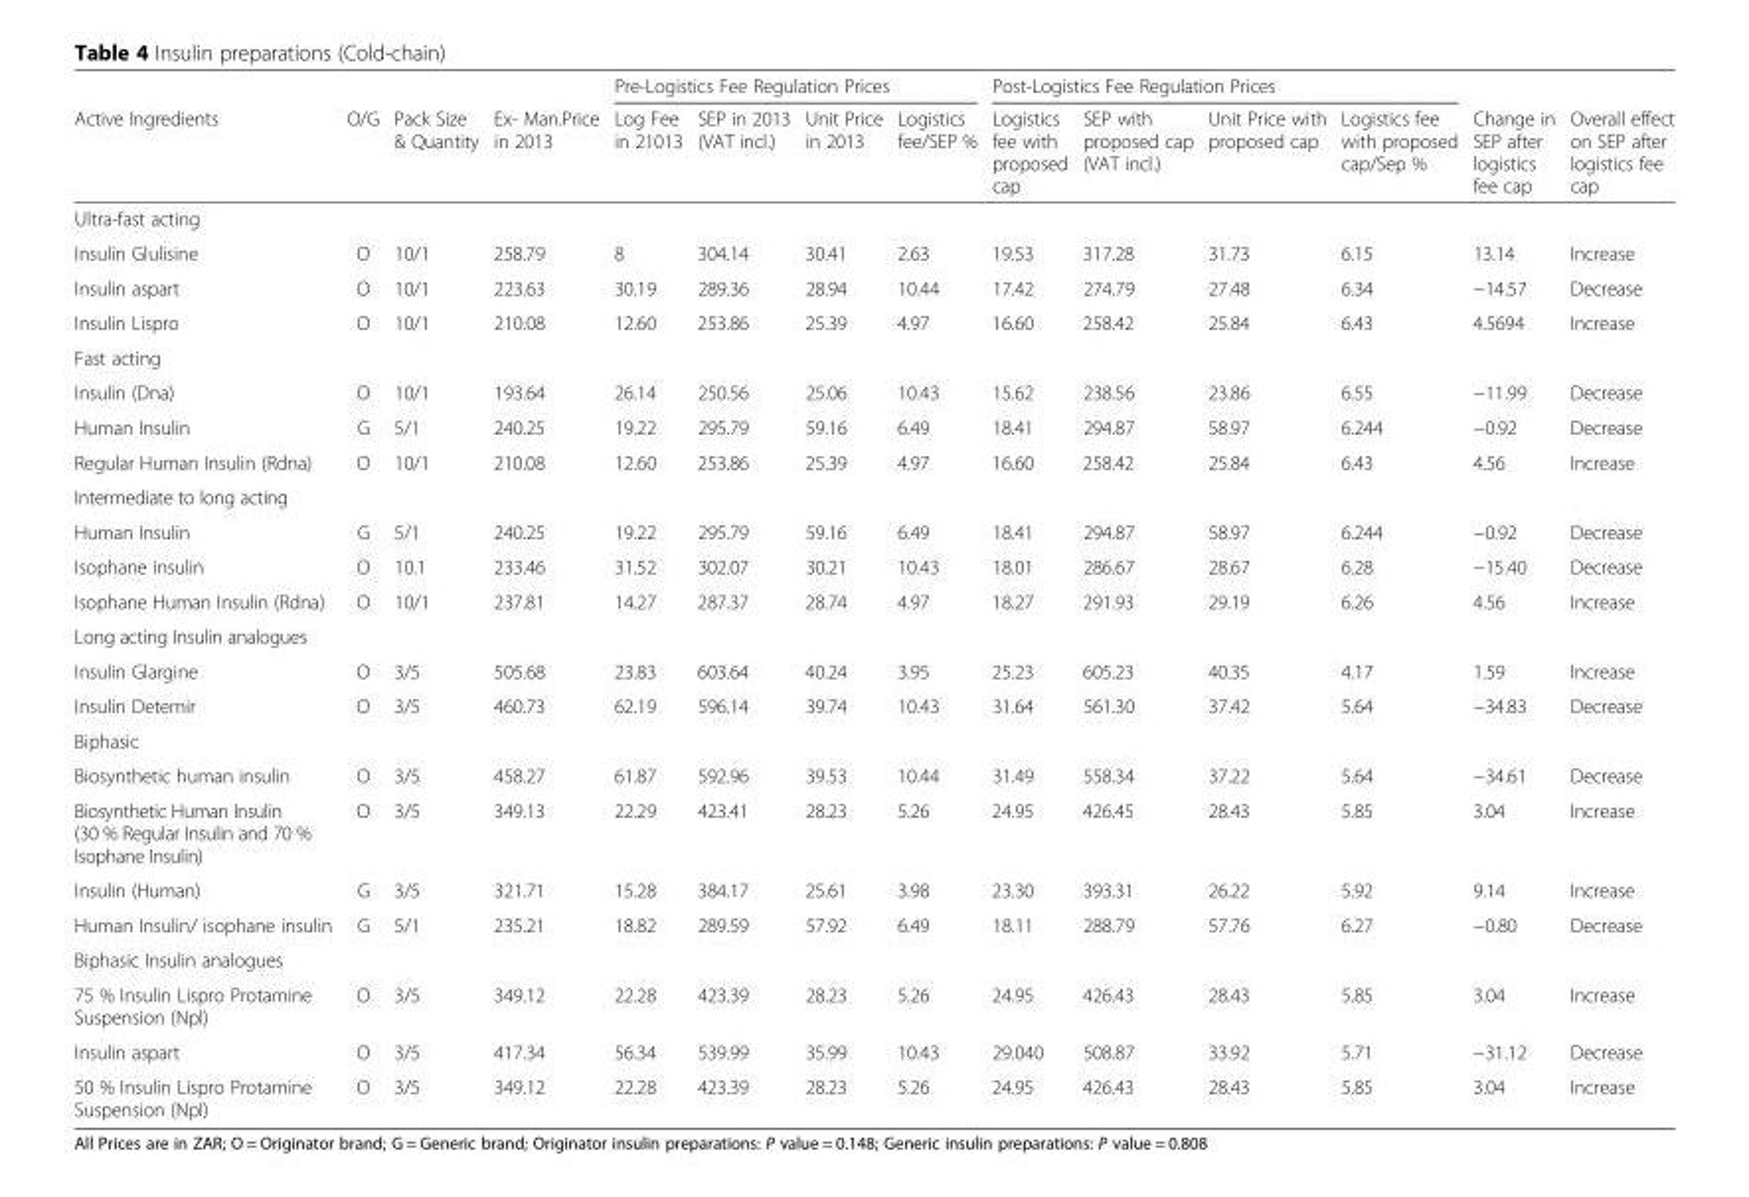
<table><thead><tr><td rowspan="2">Active Ingredients</td><td rowspan="2">O/G</td><td rowspan="2">Pack Size &amp; Quantity</td><td rowspan="2">Ex- Man.Price in 2013</td><td colspan="4">Pre-Logistics Fee Regulation Prices</td><td colspan="4">Post-Logistics Fee Regulation Prices</td><td rowspan="2">Change in SEP after logistics fee cap</td><td rowspan="2">Overall effect on SEP after logistics fee cap</td></tr><tr><td>Log Fee in 21013</td><td>SEP in 2013 (VAT incl.)</td><td>Unit Price in 2013</td><td>Logistics fee/SEP %</td><td>Logistics fee with proposed cap</td><td>SEP with proposed cap (VAT incl.)</td><td>Unit Price with proposed cap</td><td>Logistics fee with proposed cap/Sep %</td></tr></thead><tbody><tr><td colspan="14">Ultra-fast acting</td></tr><tr><td>Insulin Glulisine</td><td>O</td><td>10/1</td><td>258.79</td><td>8</td><td>304.14</td><td>30.41</td><td>2.63</td><td>19.53</td><td>317.28</td><td>31.73</td><td>6.15</td><td>13.14</td><td>Increase</td></tr><tr><td>Insulin aspart</td><td>O</td><td>10/1</td><td>223.63</td><td>30.19</td><td>289.36</td><td>28.94</td><td>10.44</td><td>17.42</td><td>274.79</td><td>27.48</td><td>6.34</td><td>−14.57</td><td>Decrease</td></tr><tr><td>Insulin Lispro</td><td>O</td><td>10/1</td><td>210.08</td><td>12.60</td><td>253.86</td><td>25.39</td><td>4.97</td><td>16.60</td><td>258.42</td><td>25.84</td><td>6.43</td><td>4.5694</td><td>Increase</td></tr><tr><td colspan="14">Fast acting</td></tr><tr><td>Insulin (Dna)</td><td>O</td><td>10/1</td><td>193.64</td><td>26.14</td><td>250.56</td><td>25.06</td><td>10.43</td><td>15.62</td><td>238.56</td><td>23.86</td><td>6.55</td><td>−11.99</td><td>Decrease</td></tr><tr><td>Human Insulin</td><td>G</td><td>5/1</td><td>240.25</td><td>19.22</td><td>295.79</td><td>59.16</td><td>6.49</td><td>18.41</td><td>294.87</td><td>58.97</td><td>6.244</td><td>−0.92</td><td>Decrease</td></tr><tr><td>Regular Human Insulin (Rdna)</td><td>O</td><td>10/1</td><td>210.08</td><td>12.60</td><td>253.86</td><td>25.39</td><td>4.97</td><td>16.60</td><td>258.42</td><td>25.84</td><td>6.43</td><td>4.56</td><td>Increase</td></tr><tr><td colspan="14">Intermediate to long acting</td></tr><tr><td>Human Insulin</td><td>G</td><td>5/1</td><td>240.25</td><td>19.22</td><td>295.79</td><td>59.16</td><td>6.49</td><td>18.41</td><td>294.87</td><td>58.97</td><td>6.244</td><td>−0.92</td><td>Decrease</td></tr><tr><td>Isophane insulin</td><td>O</td><td>10.1</td><td>233.46</td><td>31.52</td><td>302.07</td><td>30.21</td><td>10.43</td><td>18.01</td><td>286.67</td><td>28.67</td><td>6.28</td><td>−15.40</td><td>Decrease</td></tr><tr><td>Isophane Human Insulin (Rdna)</td><td>O</td><td>10/1</td><td>237.81</td><td>14.27</td><td>287.37</td><td>28.74</td><td>4.97</td><td>18.27</td><td>291.93</td><td>29.19</td><td>6.26</td><td>4.56</td><td>Increase</td></tr><tr><td colspan="14">Long acting Insulin analogues</td></tr><tr><td>Insulin Glargine</td><td>O</td><td>3/5</td><td>505.68</td><td>23.83</td><td>603.64</td><td>40.24</td><td>3.95</td><td>25.23</td><td>605.23</td><td>40.35</td><td>4.17</td><td>1.59</td><td>Increase</td></tr><tr><td>Insulin Detemir</td><td>O</td><td>3/5</td><td>460.73</td><td>62.19</td><td>596.14</td><td>39.74</td><td>10.43</td><td>31.64</td><td>561.30</td><td>37.42</td><td>5.64</td><td>−34.83</td><td>Decrease</td></tr><tr><td colspan="14">Biphasic</td></tr><tr><td>Biosynthetic human insulin</td><td>O</td><td>3/5</td><td>458.27</td><td>61.87</td><td>592.96</td><td>39.53</td><td>10.44</td><td>31.49</td><td>558.34</td><td>37.22</td><td>5.64</td><td>−34.61</td><td>Decrease</td></tr><tr><td>Biosynthetic Human Insulin (30 % Regular Insulin and 70 % Isophane Insulin)</td><td>O</td><td>3/5</td><td>349.13</td><td>22.29</td><td>423.41</td><td>28.23</td><td>5.26</td><td>24.95</td><td>426.45</td><td>28.43</td><td>5.85</td><td>3.04</td><td>Increase</td></tr><tr><td>Insulin (Human)</td><td>G</td><td>3/5</td><td>321.71</td><td>15.28</td><td>384.17</td><td>25.61</td><td>3.98</td><td>23.30</td><td>393.31</td><td>26.22</td><td>5.92</td><td>9.14</td><td>Increase</td></tr><tr><td>Human Insulin/ isophane insulin</td><td>G</td><td>5/1</td><td>235.21</td><td>18.82</td><td>289.59</td><td>57.92</td><td>6.49</td><td>18.11</td><td>288.79</td><td>57.76</td><td>6.27</td><td>−0.80</td><td>Decrease</td></tr><tr><td colspan="14">Biphasic Insulin analogues</td></tr><tr><td>75 % Insulin Lispro Protamine Suspension (Npl)</td><td>O</td><td>3/5</td><td>349.12</td><td>22.28</td><td>423.39</td><td>28.23</td><td>5.26</td><td>24.95</td><td>426.43</td><td>28.43</td><td>5.85</td><td>3.04</td><td>Increase</td></tr><tr><td>Insulin aspart</td><td>O</td><td>3/5</td><td>417.34</td><td>56.34</td><td>539.99</td><td>35.99</td><td>10.43</td><td>29.040</td><td>508.87</td><td>33.92</td><td>5.71</td><td>−31.12</td><td>Decrease</td></tr><tr><td>50 % Insulin Lispro Protamine Suspension (Npl)</td><td>O</td><td>3/5</td><td>349.12</td><td>22.28</td><td>423.39</td><td>28.23</td><td>5.26</td><td>24.95</td><td>426.43</td><td>28.43</td><td>5.85</td><td>3.04</td><td>Increase</td></tr></tbody></table>